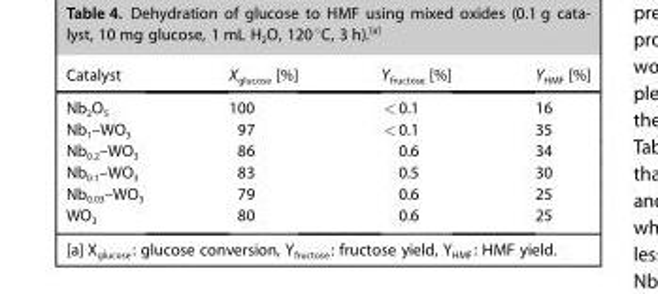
<table><thead><tr><td>Catalyst</td><td>X<sub>glucose</sub> [%]</td><td>Y<sub>fructose</sub> [%]</td><td>Y<sub>HMF</sub> [%]</td></tr></thead><tbody><tr><td>Nb<sub>2</sub>O<sub>5</sub></td><td>100</td><td>&lt;0.1</td><td>16</td></tr><tr><td>Nb<sub>1</sub>–WO<sub>3</sub></td><td>97</td><td>&lt;0.1</td><td>35</td></tr><tr><td>Nb<sub>0.2</sub>–WO<sub>3</sub></td><td>86</td><td>0.6</td><td>34</td></tr><tr><td>Nb<sub>0.1</sub>–WO<sub>3</sub></td><td>83</td><td>0.5</td><td>30</td></tr><tr><td>Nb<sub>0.03</sub>–WO<sub>3</sub></td><td>79</td><td>0.6</td><td>25</td></tr><tr><td>WO<sub>3</sub></td><td>80</td><td>0.6</td><td>25</td></tr></tbody></table>